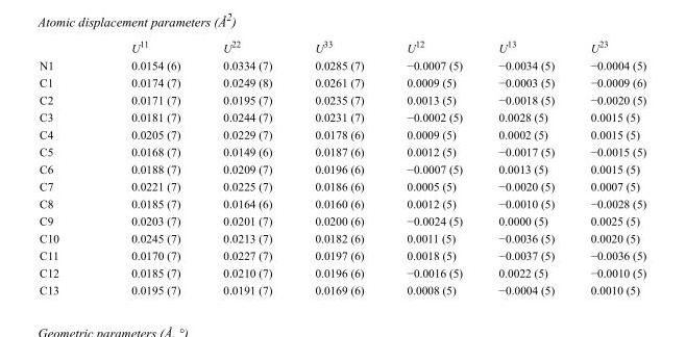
<table><thead><tr><td></td><td>U<sup>11</sup></td><td>U<sup>22</sup></td><td>U<sup>33</sup></td><td>U<sup>12</sup></td><td>U<sup>13</sup></td><td>U<sup>23</sup></td></tr></thead><tbody><tr><td>N1</td><td>0.0154 (6)</td><td>0.0334 (7)</td><td>0.0285 (7)</td><td>−0.0007 (5)</td><td>−0.0034 (5)</td><td>−0.0004 (5)</td></tr><tr><td>C1</td><td>0.0174 (7)</td><td>0.0249 (8)</td><td>0.0261 (7)</td><td>0.0009 (5)</td><td>−0.0003 (5)</td><td>−0.0009 (6)</td></tr><tr><td>C2</td><td>0.0171 (7)</td><td>0.0195 (7)</td><td>0.0235 (7)</td><td>0.0013 (5)</td><td>−0.0018 (5)</td><td>−0.0020 (5)</td></tr><tr><td>C3</td><td>0.0181 (7)</td><td>0.0244 (7)</td><td>0.0231 (7)</td><td>−0.0002 (5)</td><td>0.0028 (5)</td><td>0.0015 (5)</td></tr><tr><td>C4</td><td>0.0205 (7)</td><td>0.0229 (7)</td><td>0.0178 (6)</td><td>0.0009 (5)</td><td>0.0002 (5)</td><td>0.0015 (5)</td></tr><tr><td>C5</td><td>0.0168 (7)</td><td>0.0149 (6)</td><td>0.0187 (6)</td><td>0.0012 (5)</td><td>−0.0017 (5)</td><td>−0.0015 (5)</td></tr><tr><td>C6</td><td>0.0188 (7)</td><td>0.0209 (7)</td><td>0.0196 (6)</td><td>−0.0007 (5)</td><td>0.0013 (5)</td><td>0.0015 (5)</td></tr><tr><td>C7</td><td>0.0221 (7)</td><td>0.0225 (7)</td><td>0.0186 (6)</td><td>0.0005 (5)</td><td>−0.0020 (5)</td><td>0.0007 (5)</td></tr><tr><td>C8</td><td>0.0185 (7)</td><td>0.0164 (6)</td><td>0.0160 (6)</td><td>0.0012 (5)</td><td>−0.0010 (5)</td><td>−0.0028 (5)</td></tr><tr><td>C9</td><td>0.0203 (7)</td><td>0.0201 (7)</td><td>0.0200 (6)</td><td>−0.0024 (5)</td><td>0.0000 (5)</td><td>0.0025 (5)</td></tr><tr><td>C10</td><td>0.0245 (7)</td><td>0.0213 (7)</td><td>0.0182 (6)</td><td>0.0011 (5)</td><td>−0.0036 (5)</td><td>0.0020 (5)</td></tr><tr><td>C11</td><td>0.0170 (7)</td><td>0.0227 (7)</td><td>0.0197 (6)</td><td>0.0018 (5)</td><td>−0.0037 (5)</td><td>−0.0036 (5)</td></tr><tr><td>C12</td><td>0.0185 (7)</td><td>0.0210 (7)</td><td>0.0196 (6)</td><td>−0.0016 (5)</td><td>0.0022 (5)</td><td>−0.0010 (5)</td></tr><tr><td>C13</td><td>0.0195 (7)</td><td>0.0191 (7)</td><td>0.0169 (6)</td><td>0.0008 (5)</td><td>−0.0004 (5)</td><td>0.0010 (5)</td></tr></tbody></table>